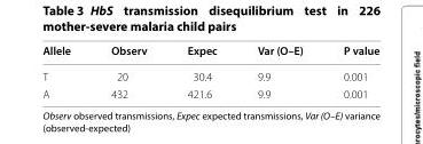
<table><thead><tr><td>Allele</td><td>Observ</td><td>Expec</td><td>Var (O–E)</td><td>P value</td></tr></thead><tbody><tr><td>T</td><td>20</td><td>30.4</td><td>9.9</td><td>0.001</td></tr><tr><td>A</td><td>432</td><td>421.6</td><td>9.9</td><td>0.001</td></tr></tbody></table>